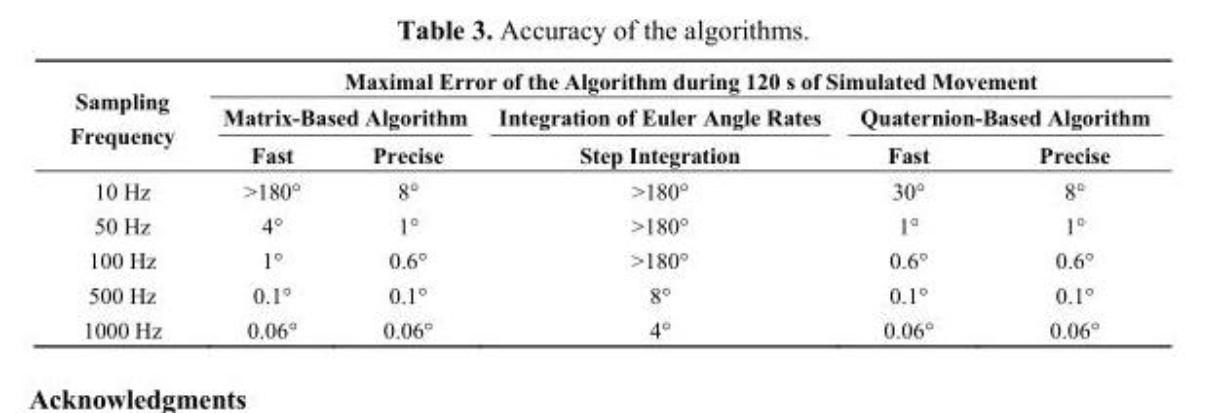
<table><thead><tr><td rowspan="3">Sampling Frequency</td><td colspan="5">Maximal Error of the Algorithm during 120 s of Simulated Movement</td></tr><tr><td colspan="2">Matrix-Based Algorithm</td><td rowspan="2">Integration of Euler Angle Rates Step Integration</td><td colspan="2">Quaternion-Based Algorithm</td></tr><tr><td>Fast</td><td>Precise</td><td>Fast</td><td>Precise</td></tr></thead><tbody><tr><td>10 Hz</td><td>&gt;180°</td><td>8°</td><td>&gt;180°</td><td>30°</td><td>8°</td></tr><tr><td>50 Hz</td><td>4°</td><td>1°</td><td>&gt;180°</td><td>1°</td><td>1°</td></tr><tr><td>100 Hz</td><td>1°</td><td>0.6°</td><td>&gt;180°</td><td>0.6°</td><td>0.6°</td></tr><tr><td>500 Hz</td><td>0.1°</td><td>0.1°</td><td>8°</td><td>0.1°</td><td>0.1°</td></tr><tr><td>1000 Hz</td><td>0.06°</td><td>0.06°</td><td>4°</td><td>0.06°</td><td>0.06°</td></tr></tbody></table>